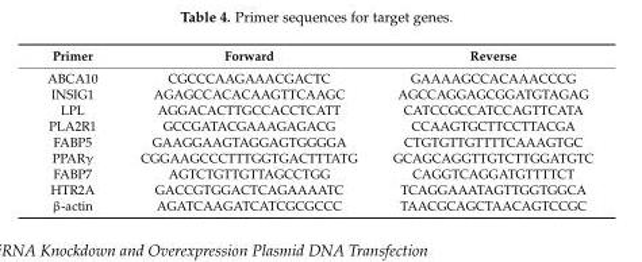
<table><thead><tr><td>Primer</td><td>Forward</td><td>Reverse</td></tr></thead><tbody><tr><td>ABCA10</td><td>CGCCCAAGAAACGACTC</td><td>GAAAAGCCACAAACCCG</td></tr><tr><td>INSIG1</td><td>AGAGCCACACAAGTTCAAGC</td><td>AGCCAGGAGCGGATGTAGAG</td></tr><tr><td>LPL</td><td>AGGACACTTGCCACCTCATT</td><td>CATCCGCCATCCAGTTCATA</td></tr><tr><td>PLA2R1</td><td>GCCGATACGAAAGAGACG</td><td>CCAAGTGCTTCCTTACGA</td></tr><tr><td>FABP5</td><td>GAAGGAAGTAGGAGTGGGGA</td><td>CTGTGTTGTTTTCAAAGTGC</td></tr><tr><td>PPARγ</td><td>CGGAAGCCCTTTGGTGACTTTATG</td><td>GCAGCAGGTTGTCTTGGATGTC</td></tr><tr><td>FABP7</td><td>AGTCTGTTGTTAGCCTGG</td><td>CAGGTCAGGATGTTTTCT</td></tr><tr><td>HTR2A</td><td>GACCGTGGACTCAGAAAATC</td><td>TCAGGAAATAGTTGGTGGCA</td></tr><tr><td>β-actin</td><td>AGATCAAGATCATCGCGCCC</td><td>TAACGCAGCTAACAGTCCGC</td></tr></tbody></table>